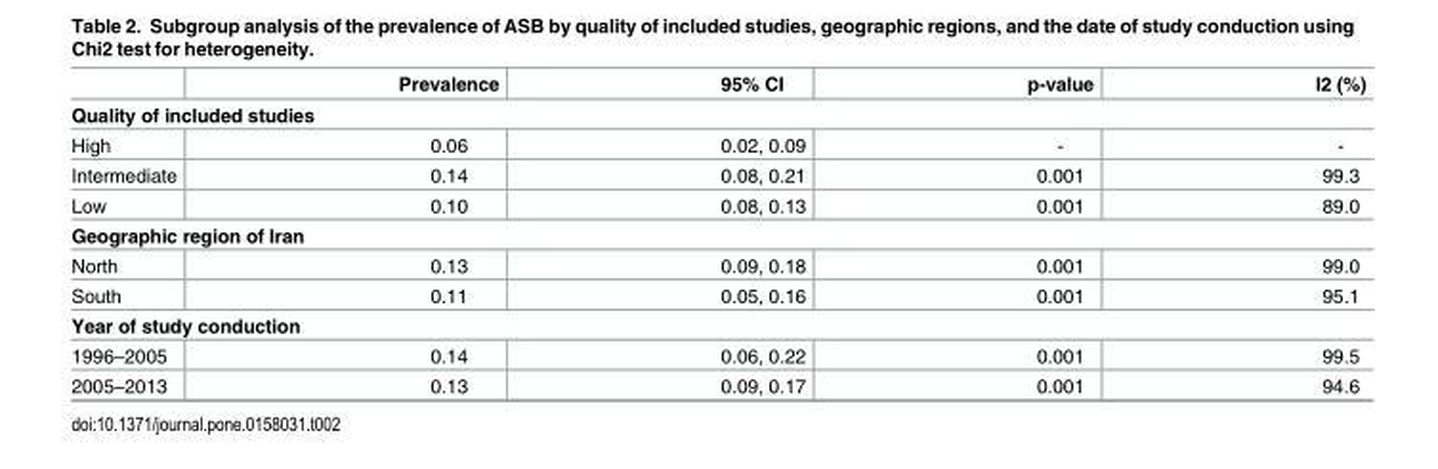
<table><thead><tr><td></td><td>Prevalence</td><td>95% CI</td><td>p-value</td><td>I2 (%)</td></tr></thead><tbody><tr><td colspan="5">Quality of included studies</td></tr><tr><td>High</td><td>0.06</td><td>0.02, 0.09</td><td>-</td><td>-</td></tr><tr><td>Intermediate</td><td>0.14</td><td>0.08, 0.21</td><td>0.001</td><td>99.3</td></tr><tr><td>Low</td><td>0.10</td><td>0.08, 0.13</td><td>0.001</td><td>89.0</td></tr><tr><td colspan="5">Geographic region of Iran</td></tr><tr><td>North</td><td>0.13</td><td>0.09, 0.18</td><td>0.001</td><td>99.0</td></tr><tr><td>South</td><td>0.11</td><td>0.05, 0.16</td><td>0.001</td><td>95.1</td></tr><tr><td colspan="5">Year of study conduction</td></tr><tr><td>1996–2005</td><td>0.14</td><td>0.06, 0.22</td><td>0.001</td><td>99.5</td></tr><tr><td>2005–2013</td><td>0.13</td><td>0.09, 0.17</td><td>0.001</td><td>94.6</td></tr></tbody></table>